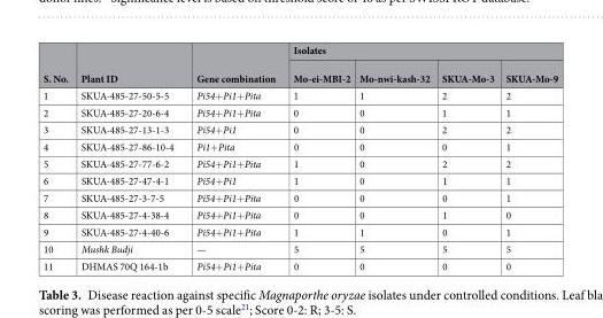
<table><thead><tr><td rowspan="2">S. No.</td><td rowspan="2">Plant ID</td><td rowspan="2">Gene combination</td><td colspan="4">Isolates</td></tr><tr><td>Mo-ei-MBI-2</td><td>Mo-nwi-kash-32</td><td>SKUA-Mo-3</td><td>SKUA-Mo-9</td></tr></thead><tbody><tr><td>1</td><td>SKUA-485-27-50-5-5</td><td>Pi54+Pi1+Pita</td><td>1</td><td>1</td><td>2</td><td>2</td></tr><tr><td>2</td><td>SKUA-485-27-20-6-4</td><td>Pi54+Pi1+Pita</td><td>0</td><td>0</td><td>1</td><td>1</td></tr><tr><td>3</td><td>SKUA-485-27-13-1-3</td><td>Pi54+Pi1</td><td>0</td><td>0</td><td>2</td><td>2</td></tr><tr><td>4</td><td>SKUA-485-27-86-10-4</td><td>Pi1+Pita</td><td>0</td><td>0</td><td>0</td><td>1</td></tr><tr><td>5</td><td>SKUA-485-27-77-6-2</td><td>Pi54+Pi1+Pita</td><td>1</td><td>0</td><td>2</td><td>2</td></tr><tr><td>6</td><td>SKUA-485-27-47-4-1</td><td>Pi54+Pi1</td><td>1</td><td>0</td><td>1</td><td>1</td></tr><tr><td>7</td><td>SKUA-485-27-3-7-5</td><td>Pi54+Pi1+Pita</td><td>0</td><td>0</td><td>0</td><td>1</td></tr><tr><td>8</td><td>SKUA-485-27-4-38-4</td><td>Pi54+Pi1+Pita</td><td>0</td><td>0</td><td>1</td><td>0</td></tr><tr><td>9</td><td>SKUA-485-27-4-40-6</td><td>Pi54+Pi1+Pita</td><td>1</td><td>1</td><td>0</td><td>1</td></tr><tr><td>10</td><td>Mushk Budji</td><td>—</td><td>5</td><td>5</td><td>5</td><td>5</td></tr><tr><td>11</td><td>DHMAS 70Q 164-1b</td><td>Pi54+Pi1+Pita</td><td>0</td><td>0</td><td>0</td><td>0</td></tr></tbody></table>